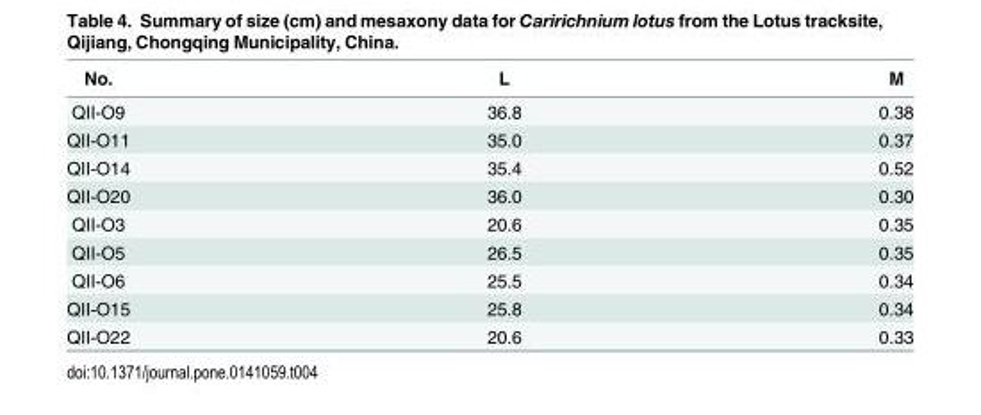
<table><thead><tr><td>No.</td><td>L</td><td>M</td></tr></thead><tbody><tr><td>QII-O9</td><td>36.8</td><td>0.38</td></tr><tr><td>QII-O11</td><td>35.0</td><td>0.37</td></tr><tr><td>QII-O14</td><td>35.4</td><td>0.52</td></tr><tr><td>QII-O20</td><td>36.0</td><td>0.30</td></tr><tr><td>QII-O3</td><td>20.6</td><td>0.35</td></tr><tr><td>QII-O5</td><td>26.5</td><td>0.35</td></tr><tr><td>QII-O6</td><td>25.5</td><td>0.34</td></tr><tr><td>QII-O15</td><td>25.8</td><td>0.34</td></tr><tr><td>QII-O22</td><td>20.6</td><td>0.33</td></tr></tbody></table>